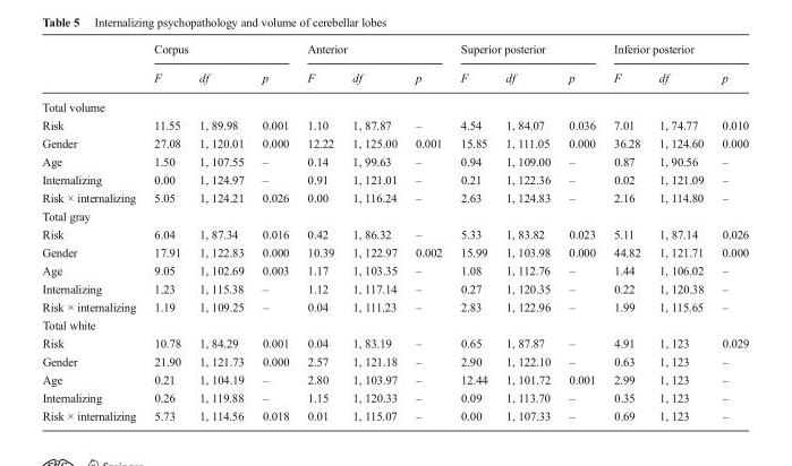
<table><thead><tr><td rowspan="2"></td><td colspan="3">Corpus</td><td colspan="3">Anterior</td><td colspan="3">Superior posterior</td><td colspan="3">Inferior posterior</td></tr><tr><td>F</td><td>df</td><td>p</td><td>F</td><td>df</td><td>p</td><td>F</td><td>df</td><td>p</td><td>F</td><td>df</td><td>p</td></tr></thead><tbody><tr><td colspan="13">Total volume</td></tr><tr><td>Risk</td><td>11.55</td><td>1, 89.98</td><td>0.001</td><td>1.10</td><td>1, 87.87</td><td>–</td><td>4.54</td><td>1, 84.07</td><td>0.036</td><td>7.01</td><td>1, 74.77</td><td>0.010</td></tr><tr><td>Gender</td><td>27.08</td><td>1, 120.01</td><td>0.000</td><td>12.22</td><td>1, 125.00</td><td>0.001</td><td>15.85</td><td>1, 111.05</td><td>0.000</td><td>36.28</td><td>1, 124.60</td><td>0.000</td></tr><tr><td>Age</td><td>1.50</td><td>1, 107.55</td><td>–</td><td>0.14</td><td>1, 99.63</td><td>–</td><td>0.94</td><td>1, 109.00</td><td>–</td><td>0.87</td><td>1, 90.56</td><td>–</td></tr><tr><td>Internalizing</td><td>0.00</td><td>1, 124.97</td><td>–</td><td>0.91</td><td>1, 121.01</td><td>–</td><td>0.21</td><td>1, 122.36</td><td>–</td><td>0.02</td><td>1, 121.09</td><td>–</td></tr><tr><td>Risk × internalizing</td><td>5.05</td><td>1, 124.21</td><td>0.026</td><td>0.00</td><td>1, 116.24</td><td>–</td><td>2.63</td><td>1, 124.83</td><td>–</td><td>2.16</td><td>1, 114.80</td><td>–</td></tr><tr><td colspan="13">Total gray</td></tr><tr><td>Risk</td><td>6.04</td><td>1, 87.34</td><td>0.016</td><td>0.42</td><td>1, 86.32</td><td>–</td><td>5.33</td><td>1, 83.82</td><td>0.023</td><td>5.11</td><td>1, 87.14</td><td>0.026</td></tr><tr><td>Gender</td><td>17.91</td><td>1, 122.83</td><td>0.000</td><td>10.39</td><td>1, 122.97</td><td>0.002</td><td>15.99</td><td>1, 103.98</td><td>0.000</td><td>44.82</td><td>1, 121.71</td><td>0.000</td></tr><tr><td>Age</td><td>9.05</td><td>1, 102.69</td><td>0.003</td><td>1.17</td><td>1, 103.35</td><td>–</td><td>1.08</td><td>1, 112.76</td><td>–</td><td>1.44</td><td>1, 106.02</td><td>–</td></tr><tr><td>Internalizing</td><td>1.23</td><td>1, 115.38</td><td>–</td><td>1.12</td><td>1, 117.14</td><td>–</td><td>0.27</td><td>1, 120.35</td><td>–</td><td>0.22</td><td>1, 120.38</td><td>–</td></tr><tr><td>Risk × internalizing</td><td>1.19</td><td>1, 109.25</td><td>–</td><td>0.04</td><td>1, 111.23</td><td>–</td><td>2.83</td><td>1, 122.96</td><td>–</td><td>1.99</td><td>1, 115.65</td><td>–</td></tr><tr><td colspan="13">Total white</td></tr><tr><td>Risk</td><td>10.78</td><td>1, 84.29</td><td>0.001</td><td>0.04</td><td>1, 83.19</td><td>–</td><td>0.65</td><td>1, 87.87</td><td>–</td><td>4.91</td><td>1, 123</td><td>0.029</td></tr><tr><td>Gender</td><td>21.90</td><td>1, 121.73</td><td>0.000</td><td>2.57</td><td>1, 121.18</td><td>–</td><td>2.90</td><td>1, 122.10</td><td>–</td><td>0.63</td><td>1, 123</td><td>–</td></tr><tr><td>Age</td><td>0.21</td><td>1, 104.19</td><td>–</td><td>2.80</td><td>1, 103.97</td><td>–</td><td>12.44</td><td>1, 101.72</td><td>0.001</td><td>2.99</td><td>1, 123</td><td>–</td></tr><tr><td>Internalizing</td><td>0.26</td><td>1, 119.88</td><td>–</td><td>1.15</td><td>1, 120.33</td><td>–</td><td>0.09</td><td>1, 113.70</td><td>–</td><td>0.35</td><td>1, 123</td><td>–</td></tr><tr><td>Risk × internalizing</td><td>5.73</td><td>1, 114.56</td><td>0.018</td><td>0.01</td><td>1, 115.07</td><td>–</td><td>0.00</td><td>1, 107.33</td><td>–</td><td>0.69</td><td>1, 123</td><td>–</td></tr></tbody></table>